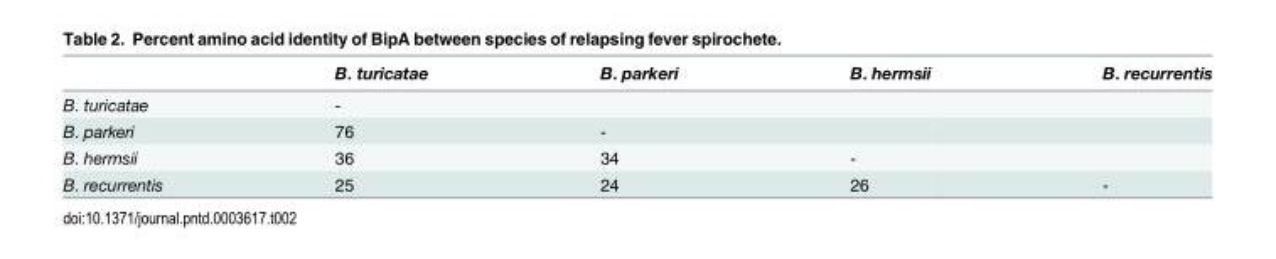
<table><thead><tr><td></td><td>B. turicatae</td><td>B. parkeri</td><td>B. hermsii</td><td>B. recurrentis</td></tr></thead><tbody><tr><td>B. turicatae</td><td>-</td><td></td><td></td><td></td></tr><tr><td>B. parkeri</td><td>76</td><td>-</td><td></td><td></td></tr><tr><td>B. hermsii</td><td>36</td><td>34</td><td>-</td><td></td></tr><tr><td>B. recurrentis</td><td>25</td><td>24</td><td>26</td><td>-</td></tr></tbody></table>